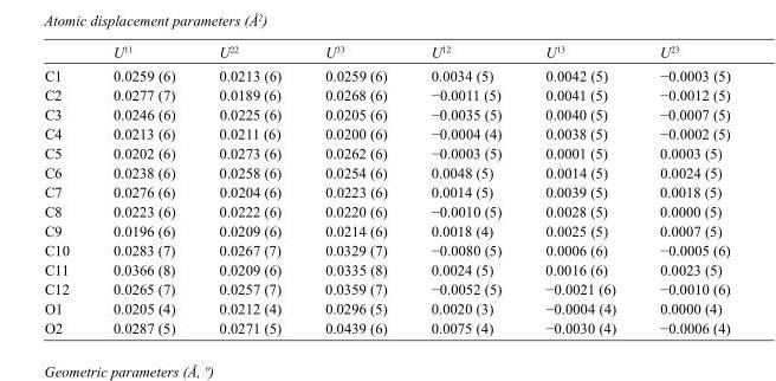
<table><thead><tr><td></td><td>U<sup>11</sup></td><td>U<sup>22</sup></td><td>U<sup>33</sup></td><td>U<sup>12</sup></td><td>U<sup>13</sup></td><td>U<sup>23</sup></td></tr></thead><tbody><tr><td>C1</td><td>0.0259 (6)</td><td>0.0213 (6)</td><td>0.0259 (6)</td><td>0.0034 (5)</td><td>0.0042 (5)</td><td>−0.0003 (5)</td></tr><tr><td>C2</td><td>0.0277 (7)</td><td>0.0189 (6)</td><td>0.0268 (6)</td><td>−0.0011 (5)</td><td>0.0041 (5)</td><td>−0.0012 (5)</td></tr><tr><td>C3</td><td>0.0246 (6)</td><td>0.0225 (6)</td><td>0.0205 (6)</td><td>−0.0035 (5)</td><td>0.0040 (5)</td><td>−0.0007 (5)</td></tr><tr><td>C4</td><td>0.0213 (6)</td><td>0.0211 (6)</td><td>0.0200 (6)</td><td>−0.0004 (4)</td><td>0.0038 (5)</td><td>−0.0002 (5)</td></tr><tr><td>C5</td><td>0.0202 (6)</td><td>0.0273 (6)</td><td>0.0262 (6)</td><td>−0.0003 (5)</td><td>0.0001 (5)</td><td>0.0003 (5)</td></tr><tr><td>C6</td><td>0.0238 (6)</td><td>0.0258 (6)</td><td>0.0254 (6)</td><td>0.0048 (5)</td><td>0.0014 (5)</td><td>0.0024 (5)</td></tr><tr><td>C7</td><td>0.0276 (6)</td><td>0.0204 (6)</td><td>0.0223 (6)</td><td>0.0014 (5)</td><td>0.0039 (5)</td><td>0.0018 (5)</td></tr><tr><td>C8</td><td>0.0223 (6)</td><td>0.0222 (6)</td><td>0.0220 (6)</td><td>−0.0010 (5)</td><td>0.0028 (5)</td><td>0.0000 (5)</td></tr><tr><td>C9</td><td>0.0196 (6)</td><td>0.0209 (6)</td><td>0.0214 (6)</td><td>0.0018 (4)</td><td>0.0025 (5)</td><td>0.0007 (5)</td></tr><tr><td>C10</td><td>0.0283 (7)</td><td>0.0267 (7)</td><td>0.0329 (7)</td><td>−0.0080 (5)</td><td>0.0006 (6)</td><td>−0.0005 (6)</td></tr><tr><td>C11</td><td>0.0366 (8)</td><td>0.0209 (6)</td><td>0.0335 (8)</td><td>0.0024 (5)</td><td>0.0016 (6)</td><td>0.0023 (5)</td></tr><tr><td>C12</td><td>0.0265 (7)</td><td>0.0257 (7)</td><td>0.0359 (7)</td><td>−0.0052 (5)</td><td>−0.0021 (6)</td><td>−0.0010 (6)</td></tr><tr><td>O1</td><td>0.0205 (4)</td><td>0.0212 (4)</td><td>0.0296 (5)</td><td>0.0020 (3)</td><td>−0.0004 (4)</td><td>0.0000 (4)</td></tr><tr><td>O2</td><td>0.0287 (5)</td><td>0.0271 (5)</td><td>0.0439 (6)</td><td>0.0075 (4)</td><td>−0.0030 (4)</td><td>−0.0006 (4)</td></tr></tbody></table>